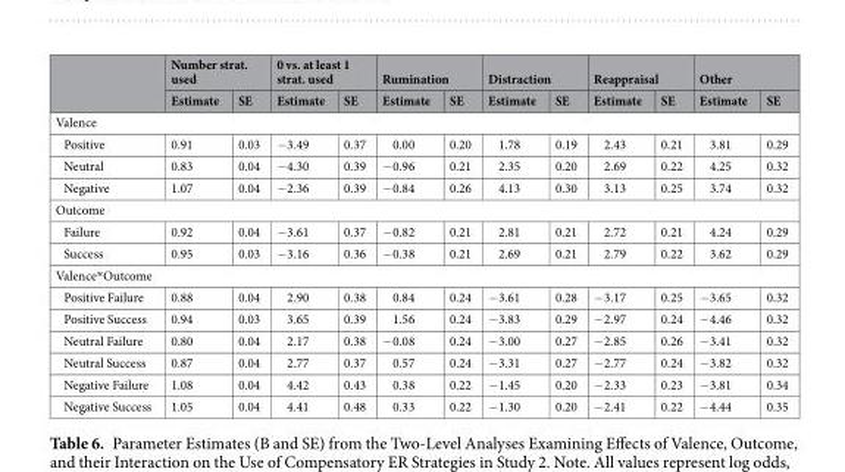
<table><thead><tr><td rowspan="2"></td><td colspan="2">Number strat. used</td><td colspan="2">0 vs. at least 1 strat. used</td><td colspan="2">Rumination</td><td colspan="2">Distraction</td><td colspan="2">Reappraisal</td><td colspan="2">Other</td></tr><tr><td>Estimate</td><td>SE</td><td>Estimate</td><td>SE</td><td>Estimate</td><td>SE</td><td>Estimate</td><td>SE</td><td>Estimate</td><td>SE</td><td>Estimate</td><td>SE</td></tr></thead><tbody><tr><td colspan="13">Valence</td></tr><tr><td>Positive</td><td>0.91</td><td>0.03</td><td>−3.49</td><td>0.37</td><td>0.00</td><td>0.20</td><td>1.78</td><td>0.19</td><td>2.43</td><td>0.21</td><td>3.81</td><td>0.29</td></tr><tr><td>Neutral</td><td>0.83</td><td>0.04</td><td>−4.30</td><td>0.39</td><td>−0.96</td><td>0.21</td><td>2.35</td><td>0.20</td><td>2.69</td><td>0.22</td><td>4.25</td><td>0.32</td></tr><tr><td>Negative</td><td>1.07</td><td>0.04</td><td>−2.36</td><td>0.39</td><td>−0.84</td><td>0.26</td><td>4.13</td><td>0.30</td><td>3.13</td><td>0.25</td><td>3.74</td><td>0.32</td></tr><tr><td colspan="13">Outcome</td></tr><tr><td>Failure</td><td>0.92</td><td>0.04</td><td>−3.61</td><td>0.37</td><td>−0.82</td><td>0.21</td><td>2.81</td><td>0.21</td><td>2.72</td><td>0.21</td><td>4.24</td><td>0.29</td></tr><tr><td>Success</td><td>0.95</td><td>0.03</td><td>−3.16</td><td>0.36</td><td>−0.38</td><td>0.21</td><td>2.69</td><td>0.21</td><td>2.79</td><td>0.22</td><td>3.62</td><td>0.29</td></tr><tr><td colspan="13">Valence*Outcome</td></tr><tr><td>Positive Failure</td><td>0.88</td><td>0.04</td><td>2.90</td><td>0.38</td><td>0.84</td><td>0.24</td><td>−3.61</td><td>0.28</td><td>−3.17</td><td>0.25</td><td>−3.65</td><td>0.32</td></tr><tr><td>Positive Success</td><td>0.94</td><td>0.03</td><td>3.65</td><td>0.39</td><td>1.56</td><td>0.24</td><td>−3.83</td><td>0.29</td><td>−2.97</td><td>0.24</td><td>−4.46</td><td>0.32</td></tr><tr><td>Neutral Failure</td><td>0.80</td><td>0.04</td><td>2.17</td><td>0.38</td><td>−0.08</td><td>0.24</td><td>−3.00</td><td>0.27</td><td>−2.85</td><td>0.26</td><td>−3.41</td><td>0.32</td></tr><tr><td>Neutral Success</td><td>0.87</td><td>0.04</td><td>2.77</td><td>0.37</td><td>0.57</td><td>0.24</td><td>−3.31</td><td>0.27</td><td>−2.77</td><td>0.24</td><td>−3.82</td><td>0.32</td></tr><tr><td>Negative Failure</td><td>1.08</td><td>0.04</td><td>4.42</td><td>0.43</td><td>0.38</td><td>0.22</td><td>−1.45</td><td>0.20</td><td>−2.33</td><td>0.23</td><td>−3.81</td><td>0.34</td></tr><tr><td>Negative Success</td><td>1.05</td><td>0.04</td><td>4.41</td><td>0.48</td><td>0.33</td><td>0.22</td><td>−1.30</td><td>0.20</td><td>−2.41</td><td>0.22</td><td>−4.44</td><td>0.35</td></tr></tbody></table>